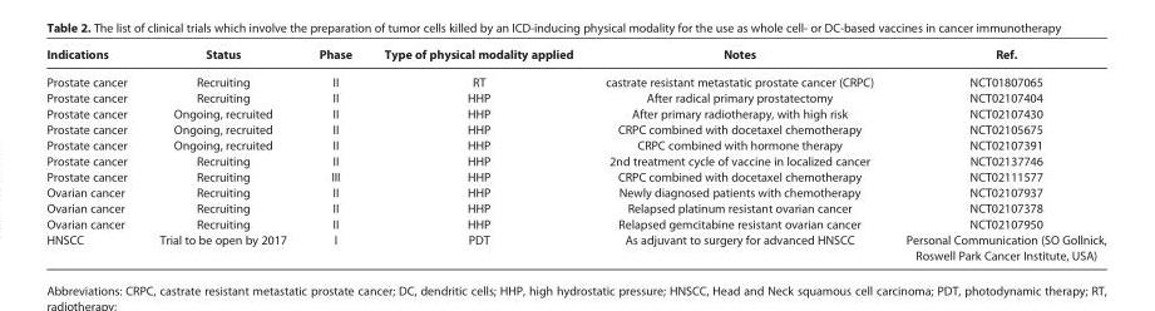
<table><thead><tr><td>Indications</td><td>Status</td><td>Phase</td><td>Type of physical modality applied</td><td>Notes</td><td>Ref.</td></tr></thead><tbody><tr><td>Prostate cancer</td><td>Recruiting</td><td>II</td><td>RT</td><td>castrate resistant metastatic prostate cancer (CRPC)</td><td>NCT01807065</td></tr><tr><td>Prostate cancer</td><td>Recruiting</td><td>II</td><td>HHP</td><td>After radical primary prostatectomy</td><td>NCT02107404</td></tr><tr><td>Prostate cancer</td><td>Ongoing, recruited</td><td>II</td><td>HHP</td><td>After primary radiotherapy, with high risk</td><td>NCT02107430</td></tr><tr><td>Prostate cancer</td><td>Ongoing, recruited</td><td>II</td><td>HHP</td><td>CRPC combined with docetaxel chemotherapy</td><td>NCT02105675</td></tr><tr><td>Prostate cancer</td><td>Ongoing, recruited</td><td>II</td><td>HHP</td><td>CRPC combined with hormone therapy</td><td>NCT02107391</td></tr><tr><td>Prostate cancer</td><td>Recruiting</td><td>II</td><td>HHP</td><td>2nd treatment cycle of vaccine in localized cancer</td><td>NCT02137746</td></tr><tr><td>Prostate cancer</td><td>Recruiting</td><td>III</td><td>HHP</td><td>CRPC combined with docetaxel chemotherapy</td><td>NCT02111577</td></tr><tr><td>Ovarian cancer</td><td>Recruiting</td><td>II</td><td>HHP</td><td>Newly diagnosed patients with chemotherapy</td><td>NCT02107937</td></tr><tr><td>Ovarian cancer</td><td>Recruiting</td><td>II</td><td>HHP</td><td>Relapsed platinum resistant ovarian cancer</td><td>NCT02107378</td></tr><tr><td>Ovarian cancer</td><td>Recruiting</td><td>II</td><td>HHP</td><td>Relapsed gemcitabine resistant ovarian cancer</td><td>NCT02107950</td></tr><tr><td>HNSCC</td><td>Trial to be open by 2017</td><td>I</td><td>PDT</td><td>As adjuvant to surgery for advanced HNSCC</td><td>Personal Communication (SO Gollnick, Roswell Park Cancer Institute, USA)</td></tr></tbody></table>